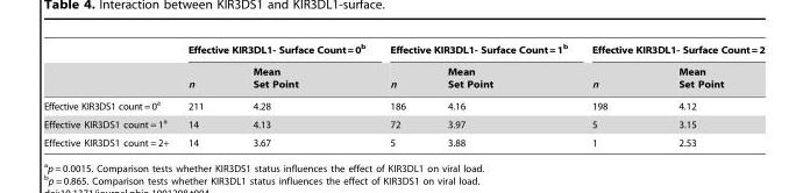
<table><thead><tr><td rowspan="2"></td><td colspan="2">Effective KIR3DL1- Surface Count=0<sup>b</sup></td><td colspan="2">Effective KIR3DL1- Surface Count=1<sup>b</sup></td><td colspan="2">Effective KIR3DL1- Surface Count=2</td></tr><tr><td>n</td><td>Mean Set Point</td><td>n</td><td>Mean Set Point</td><td>n</td><td>Mean Set Point</td></tr></thead><tbody><tr><td>Effective KIR3DS1 count=0<sup>a</sup></td><td>211</td><td>4.28</td><td>186</td><td>4.16</td><td>198</td><td>4.12</td></tr><tr><td>Effective KIR3DS1 count = 1<sup>a</sup></td><td>14</td><td>4.13</td><td>72</td><td>3.97</td><td>5</td><td>3.15</td></tr><tr><td>Effective KIR3DS1 count = 2+</td><td>14</td><td>3.67</td><td>5</td><td>3.88</td><td>1</td><td>2.53</td></tr></tbody></table>